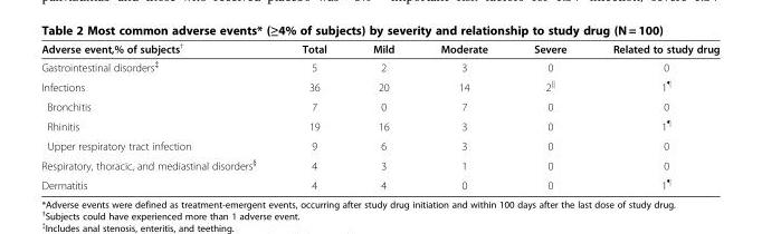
<table><thead><tr><td>Adverse event,% of subjects<sup>†</sup></td><td>Total</td><td>Mild</td><td>Moderate</td><td>Severe</td><td>Related to study drug</td></tr></thead><tbody><tr><td>Gastrointestinal disorders<sup>‡</sup></td><td>5</td><td>2</td><td>3</td><td>0</td><td>0</td></tr><tr><td>Infections</td><td>36</td><td>20</td><td>14</td><td>2<sup>||</sup></td><td>1<sup>¶</sup></td></tr><tr><td>Bronchitis</td><td>7</td><td>0</td><td>7</td><td>0</td><td>0</td></tr><tr><td>Rhinitis</td><td>19</td><td>16</td><td>3</td><td>0</td><td>1<sup>¶</sup></td></tr><tr><td>Upper respiratory tract infection</td><td>9</td><td>6</td><td>3</td><td>0</td><td>0</td></tr><tr><td>Respiratory, thoracic, and mediastinal disorders<sup>§</sup></td><td>4</td><td>3</td><td>1</td><td>0</td><td>0</td></tr><tr><td>Dermatitis</td><td>4</td><td>4</td><td>0</td><td>0</td><td>1<sup>¶</sup></td></tr></tbody></table>